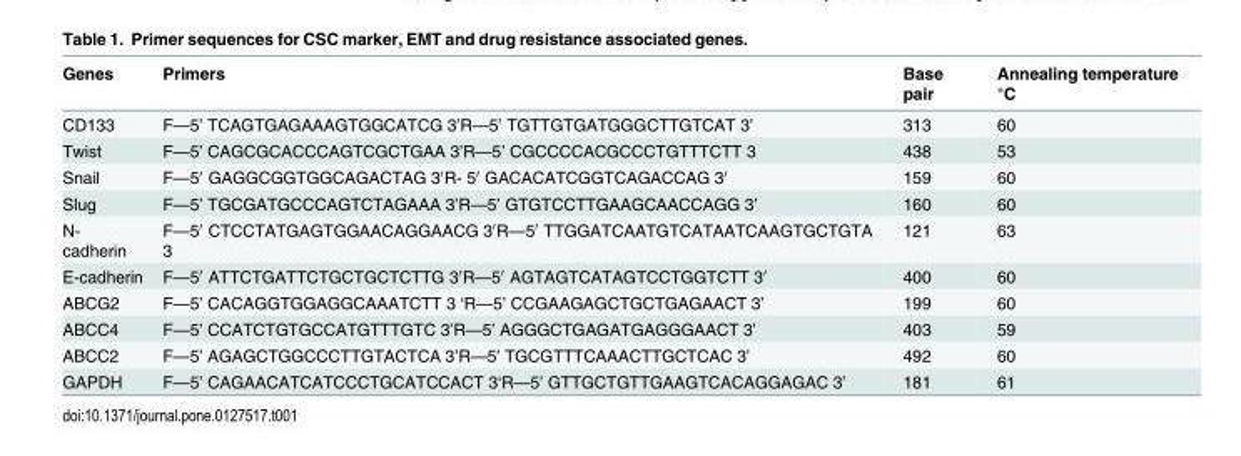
<table><thead><tr><td>Genes</td><td>Primers</td><td>Base pair</td><td>Annealing temperature °C</td></tr></thead><tbody><tr><td>CD133</td><td>F—5’ TCAGTGAGAAAGTGGCATCG 3’R—5’ TGTTGTGATGGGCTTGTCAT 3’</td><td>313</td><td>60</td></tr><tr><td>Twist</td><td>F—5’ CAGCGCACCCAGTCGCTGAA 3’R—5’ CGCCCCACGCCCTGTTTCTT 3</td><td>438</td><td>53</td></tr><tr><td>Snail</td><td>F—5′ GAGGCGGTGGCAGACTAG 3′R- 5′ GACACATCGGTCAGACCAG 3′</td><td>159</td><td>60</td></tr><tr><td>Slug</td><td>F—5’ TGCGATGCCCAGTCTAGAAA 3’R—5’ GTGTCCTTGAAGCAACCAGG 3’</td><td>160</td><td>60</td></tr><tr><td>N- cadherin</td><td>F—5′ CTCCTATGAGTGGAACAGGAACG 3′R—5′ TTGGATCAATGTCATAATCAAGTGCTGTA 3</td><td>121</td><td>63</td></tr><tr><td>E-cadherin</td><td>F—5′ ATTCTGATTCTGCTGCTCTTG 3′R—5′ AGTAGTCATAGTCCTGGTCTT 3′</td><td>400</td><td>60</td></tr><tr><td>ABCG2</td><td>F—5’ CACAGGTGGAGGCAAATCTT 3 ‘R—5’ CCGAAGAGCTGCTGAGAACT 3’</td><td>199</td><td>60</td></tr><tr><td>ABCC4</td><td>F—5’ CCATCTGTGCCATGTTTGTC 3’R—5’ AGGGCTGAGATGAGGGAACT 3’</td><td>403</td><td>59</td></tr><tr><td>ABCC2</td><td>F—5’ AGAGCTGGCCCTTGTACTCA 3’R—5’ TGCGTTTCAAACTTGCTCAC 3’</td><td>492</td><td>60</td></tr><tr><td>GAPDH</td><td>F—5’ CAGAACATCATCCCTGCATCCACT 3‘R—5’ GTTGCTGTTGAAGTCACAGGAGAC 3’</td><td>181</td><td>61</td></tr></tbody></table>